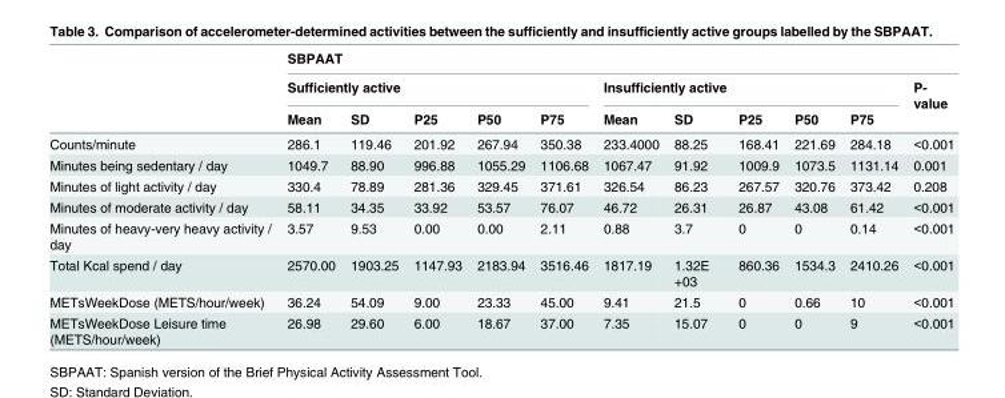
<table><thead><tr><td rowspan="3"></td><td colspan="11">SBPAAT</td></tr><tr><td colspan="5">Sufficiently active</td><td colspan="5">Insufficiently active</td><td rowspan="2">P- value</td></tr><tr><td>Mean</td><td>SD</td><td>P25</td><td>P50</td><td>P75</td><td>Mean</td><td>SD</td><td>P25</td><td>P50</td><td>P75</td></tr></thead><tbody><tr><td>Counts/minute</td><td>286.1</td><td>119.46</td><td>201.92</td><td>267.94</td><td>350.38</td><td>233.4000</td><td>88.25</td><td>168.41</td><td>221.69</td><td>284.18</td><td>&lt;0.001</td></tr><tr><td>Minutes being sedentary / day</td><td>1049.7</td><td>88.90</td><td>996.88</td><td>1055.29</td><td>1106.68</td><td>1067.47</td><td>91.92</td><td>1009.9</td><td>1073.5</td><td>1131.14</td><td>0.001</td></tr><tr><td>Minutes of light activity / day</td><td>330.4</td><td>78.89</td><td>281.36</td><td>329.45</td><td>371.61</td><td>326.54</td><td>86.23</td><td>267.57</td><td>320.76</td><td>373.42</td><td>0.208</td></tr><tr><td>Minutes of moderate activity / day</td><td>58.11</td><td>34.35</td><td>33.92</td><td>53.57</td><td>76.07</td><td>46.72</td><td>26.31</td><td>26.87</td><td>43.08</td><td>61.42</td><td>&lt;0.001</td></tr><tr><td>Minutes of heavy-very heavy activity / day</td><td>3.57</td><td>9.53</td><td>0.00</td><td>0.00</td><td>2.11</td><td>0.88</td><td>3.7</td><td>0</td><td>0</td><td>0.14</td><td>&lt;0.001</td></tr><tr><td>Total Kcal spend / day</td><td>2570.00</td><td>1903.25</td><td>1147.93</td><td>2183.94</td><td>3516.46</td><td>1817.19</td><td>1.32E +03</td><td>860.36</td><td>1534.3</td><td>2410.26</td><td>&lt;0.001</td></tr><tr><td>METsWeekDose (METS/hour/week)</td><td>36.24</td><td>54.09</td><td>9.00</td><td>23.33</td><td>45.00</td><td>9.41</td><td>21.5</td><td>0</td><td>0.66</td><td>10</td><td>&lt;0.001</td></tr><tr><td>METsWeekDose Leisure time (METS/hour/week)</td><td>26.98</td><td>29.60</td><td>6.00</td><td>18.67</td><td>37.00</td><td>7.35</td><td>15.07</td><td>0</td><td>0</td><td>9</td><td>&lt;0.001</td></tr></tbody></table>